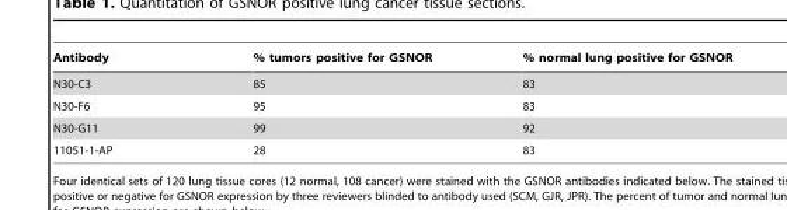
<table><thead><tr><td>Antibody</td><td>% tumors positive for GSNOR</td><td>% normal lung positive for GSNOR</td></tr></thead><tbody><tr><td>N30-C3</td><td>85</td><td>83</td></tr><tr><td>N30-F6</td><td>95</td><td>83</td></tr><tr><td>N30-G11</td><td>99</td><td>92</td></tr><tr><td>11051-1-AP</td><td>28</td><td>83</td></tr></tbody></table>